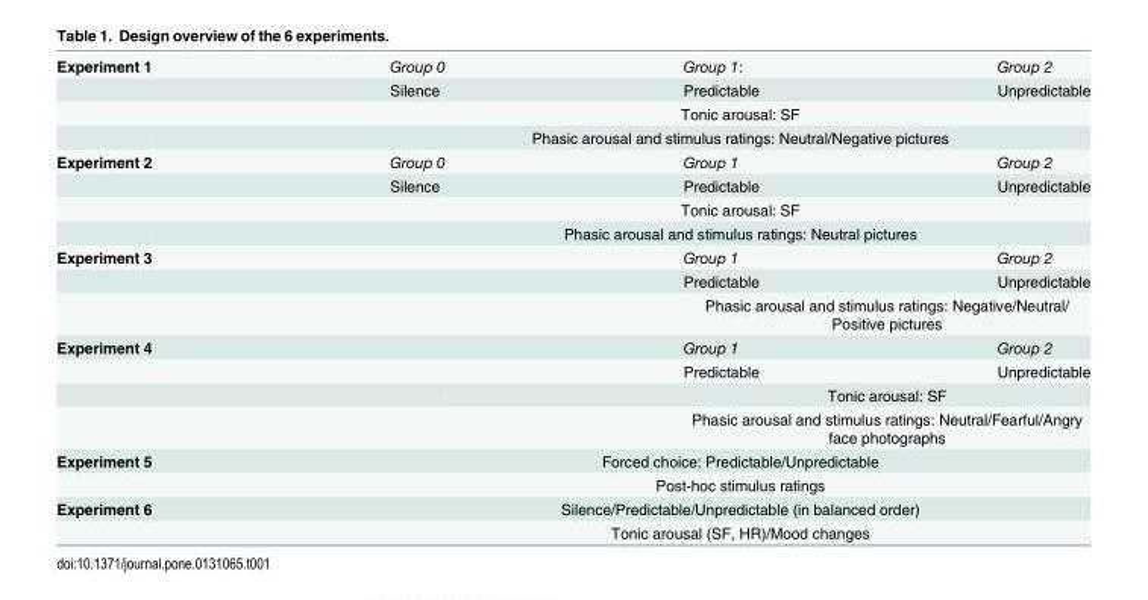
<table><tbody><tr><td rowspan="4">Experiment 1</td><td>Group 0</td><td>Group 1:</td><td>Group 2</td></tr><tr><td>Silence</td><td>Predictable</td><td>Unpredictable</td></tr><tr><td colspan="3">Tonic arousal: SF</td></tr><tr><td colspan="3">Phasic arousal and stimulus ratings: Neutral/Negative pictures</td></tr><tr><td rowspan="4">Experiment 2</td><td>Group 0</td><td>Group 1</td><td>Group 2</td></tr><tr><td>Silence</td><td>Predictable</td><td>Unpredictable</td></tr><tr><td colspan="3">Tonic arousal: SF</td></tr><tr><td colspan="3">Phasic arousal and stimulus ratings: Neutral pictures</td></tr><tr><td rowspan="3">Experiment 3</td><td></td><td>Group 1</td><td>Group 2</td></tr><tr><td></td><td>Predictable</td><td>Unpredictable</td></tr><tr><td></td><td colspan="2">Phasic arousal and stimulus ratings: Negative/Neutral/ Positive pictures</td></tr><tr><td rowspan="4">Experiment 4</td><td></td><td>Group 1</td><td>Group 2</td></tr><tr><td></td><td>Predictable</td><td>Unpredictable</td></tr><tr><td></td><td colspan="2">Tonic arousal: SF</td></tr><tr><td></td><td colspan="2">Phasic arousal and stimulus ratings: Neutral/Fearful/Angry face photographs</td></tr><tr><td rowspan="2">Experiment 5</td><td colspan="3">Forced choice: Predictable/Unpredictable</td></tr><tr><td colspan="3">Post-hoc stimulus ratings</td></tr><tr><td rowspan="2">Experiment 6</td><td colspan="3">Silence/Predictable/Unpredictable (in balanced order)</td></tr><tr><td colspan="3">Tonic arousal (SF, HR)/Mood changes</td></tr></tbody></table>